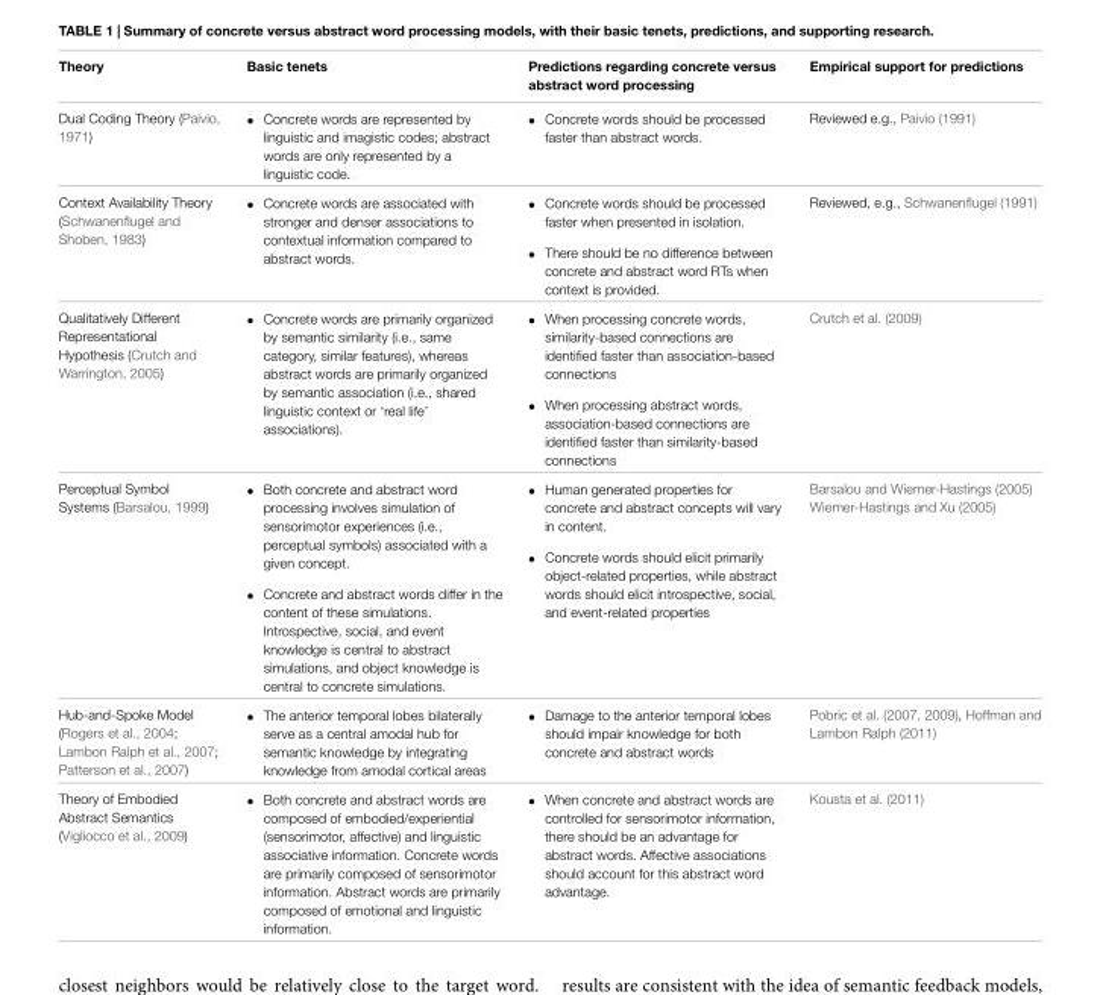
<table><thead><tr><td>Theory</td><td>Basic tenets</td><td>Predictions regarding concrete versus abstract word processing</td><td>Empirical support for predictions</td></tr></thead><tbody><tr><td>Dual Coding Theory (Paivio, 1971)</td><td>• Concrete words are represented by linguistic and imagistic codes; abstract words are only represented by a linguistic code.</td><td>• Concrete words should be processed faster than abstract words.</td><td>Reviewed e.g., Paivio (1991)</td></tr><tr><td>Context Availability Theory (Schwanenflugel and Shoben, 1983)</td><td>• Concrete words are associated with stronger and denser associations to contextual information compared to abstract words.</td><td>• Concrete words should be processed faster when presented in isolation. • There should be no difference between concrete and abstract word RTs when context is provided.</td><td>Reviewed, e.g., Schwanenflugel (1991)</td></tr><tr><td>Qualitatively Different Representational Hypothesis (Crutch and Warrington, 2005)</td><td>• Concrete words are primarily organized by semantic similarity (i.e., same category, similar features), whereas abstract words are primarily organized by semantic association (i.e., shared linguistic context or ‘real life’ associations).</td><td>• When processing concrete words, similarity-based connections are identified faster than association-based connections • When processing abstract words, association-based connections are identified faster than similarity-based connections</td><td>Crutch et al. (2009)</td></tr><tr><td>Perceptual Symbol Systems (Barsalou, 1999)</td><td>• Both concrete and abstract word processing involves simulation of sensorimotor experiences (i.e., perceptual symbols) associated with a given concept. • Concrete and abstract words differ in the content of these simulations. Introspective, social, and event knowledge is central to abstract simulations, and object knowledge is central to concrete simulations.</td><td>• Human generated properties for concrete and abstract concepts will vary in content. • Concrete words should elicit primarily object-related properties, while abstract words should elicit introspective, social, and event-related properties</td><td>Barsalou and Wiemer-Hastings (2005) Wiemer-Hastings and Xu (2005)</td></tr><tr><td>Hub-and-Spoke Model (Rogers et al., 2004; Lambon Ralph et al., 2007; Patterson et al., 2007)</td><td>• The anterior temporal lobes bilaterally serve as a central amodal hub for semantic knowledge by integrating knowledge from amodal cortical areas</td><td>• Damage to the anterior temporal lobes should impair knowledge for both concrete and abstract words</td><td>Pobric et al. (2007, 2009), Hoffman and Lambon Ralph (2011)</td></tr><tr><td>Theory of Embodied Abstract Semantics (Vigliocco et al., 2009)</td><td>• Both concrete and abstract words are composed of embodied/experiential (sensorimotor, affective) and linguistic associative information. Concrete words are primarily composed of sensorimotor information. Abstract words are primarily composed of emotional and linguistic information.</td><td>• When concrete and abstract words are controlled for sensorimotor information, there should be an advantage for abstract words. Affective associations should account for this abstract word advantage.</td><td>Kousta et al. (2011)</td></tr></tbody></table>